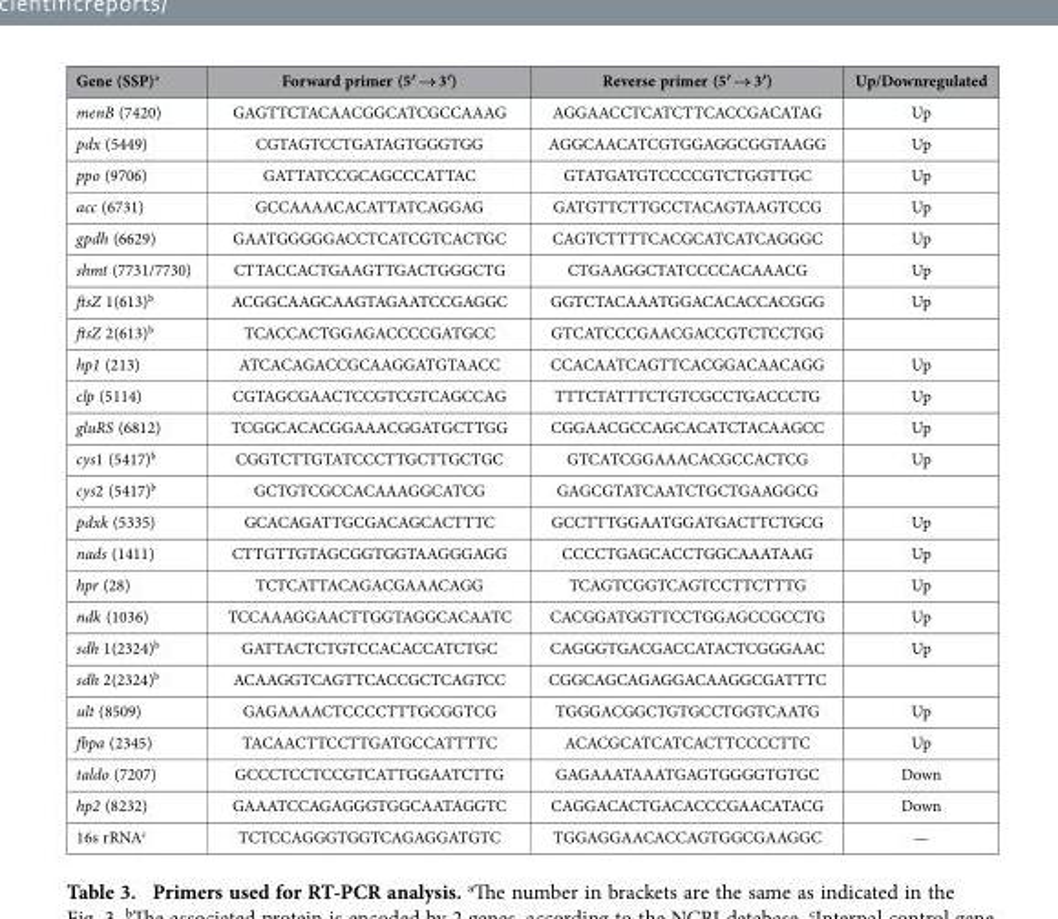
<table><thead><tr><td>Gene (SSP)<sup>a</sup></td><td>Forward primer (5′ → 3′)</td><td>Reverse primer (5′ → 3′)</td><td>Up/Downregulated</td></tr></thead><tbody><tr><td>menB (7420)</td><td>GAGTTCTACAACGGCATCGCCAAAG</td><td>AGGAACCTCATCTTCACCGACATAG</td><td>Up</td></tr><tr><td>pdx (5449)</td><td>CGTAGTCCTGATAGTGGGTGG</td><td>AGGCAACATCGTGGAGGCGGTAAGG</td><td>Up</td></tr><tr><td>ppo (9706)</td><td>GATTATCCGCAGCCCATTAC</td><td>GTATGATGTCCCCGTCTGGTTGC</td><td>Up</td></tr><tr><td>acc (6731)</td><td>GCCAAAACACATTATCAGGAG</td><td>GATGTTCTTGCCTACAGTAAGTCCG</td><td>Up</td></tr><tr><td>gpdh (6629)</td><td>GAATGGGGGACCTCATCGTCACTGC</td><td>CAGTCTTTTCACGCATCATCAGGGC</td><td>Up</td></tr><tr><td>shmt (7731/7730)</td><td>CTTACCACTGAAGTTGACTGGGCTG</td><td>CTGAAGGCTATCCCCACAAACG</td><td>Up</td></tr><tr><td>ftsZ 1(613)<sup>b</sup></td><td>ACGGCAAGCAAGTAGAATCCGAGGC</td><td>GGTCTACAAATGGACACACCACGGG</td><td>Up</td></tr><tr><td>ftsZ 2(613)<sup>b</sup></td><td>TCACCACTGGAGACCCCGATGCC</td><td>GTCATCCCGAACGACCGTCTCCTGG</td><td></td></tr><tr><td>hp1 (213)</td><td>ATCACAGACCGCAAGGATGTAACC</td><td>CCACAATCAGTTCACGGACAACAGG</td><td>Up</td></tr><tr><td>clp (5114)</td><td>CGTAGCGAACTCCGTCGTCAGCCAG</td><td>TTTCTATTTCTGTCGCCTGACCCTG</td><td>Up</td></tr><tr><td>gluRS (6812)</td><td>TCGGCACACGGAAACGGATGCTTGG</td><td>CGGAACGCCAGCACATCTACAAGCC</td><td>Up</td></tr><tr><td>cys1 (5417)<sup>b</sup></td><td>CGGTCTTGTATCCCTTGCTTGCTGC</td><td>GTCATCGGAAACACGCCACTCG</td><td>Up</td></tr><tr><td>cys2 (5417)<sup>b</sup></td><td>GCTGTCGCCACAAAGGCATCG</td><td>GAGCGTATCAATCTGCTGAAGGCG</td><td></td></tr><tr><td>pdxk (5335)</td><td>GCACAGATTGCGACAGCACTTTC</td><td>GCCTTTGGAATGGATGACTTCTGCG</td><td>Up</td></tr><tr><td>nads (1411)</td><td>CTTGTTGTAGCGGTGGTAAGGGAGG</td><td>CCCCTGAGCACCTGGCAAATAAG</td><td>Up</td></tr><tr><td>hpr (28)</td><td>TCTCATTACAGACGAAACAGG</td><td>TCAGTCGGTCAGTCCTTCTTTG</td><td>Up</td></tr><tr><td>ndk (1036)</td><td>TCCAAAGGAACTTGGTAGGCACAATC</td><td>CACGGATGGTTCCTGGAGCCGCCTG</td><td>Up</td></tr><tr><td>sdh 1(2324)<sup>b</sup></td><td>GATTACTCTGTCCACACCATCTGC</td><td>CAGGGTGACGACCATACTCGGGAAC</td><td>Up</td></tr><tr><td>sdh 2(2324)<sup>b</sup></td><td>ACAAGGTCAGTTCACCGCTCAGTCC</td><td>CGGCAGCAGAGGACAAGGCGATTTC</td><td></td></tr><tr><td>ult (8509)</td><td>GAGAAAACTCCCCTTTGCGGTCG</td><td>TGGGACGGCTGTGCCTGGTCAATG</td><td>Up</td></tr><tr><td>fbpa (2345)</td><td>TACAACTTCCTTGATGCCATTTTC</td><td>ACACGCATCATCACTTCCCCTTC</td><td>Up</td></tr><tr><td>taldo (7207)</td><td>GCCCTCCTCCGTCATTGGAATCTTG</td><td>GAGAAATAAATGAGTGGGGTGTGC</td><td>Down</td></tr><tr><td>hp2 (8232)</td><td>GAAATCCAGAGGGTGGCAATAGGTC</td><td>CAGGACACTGACACCCGAACATACG</td><td>Down</td></tr><tr><td>16s rRNA<sup>c</sup></td><td>TCTCCAGGGTGGTCAGAGGATGTC</td><td>TGGAGGAACACCAGTGGCGAAGGC</td><td>—</td></tr></tbody></table>